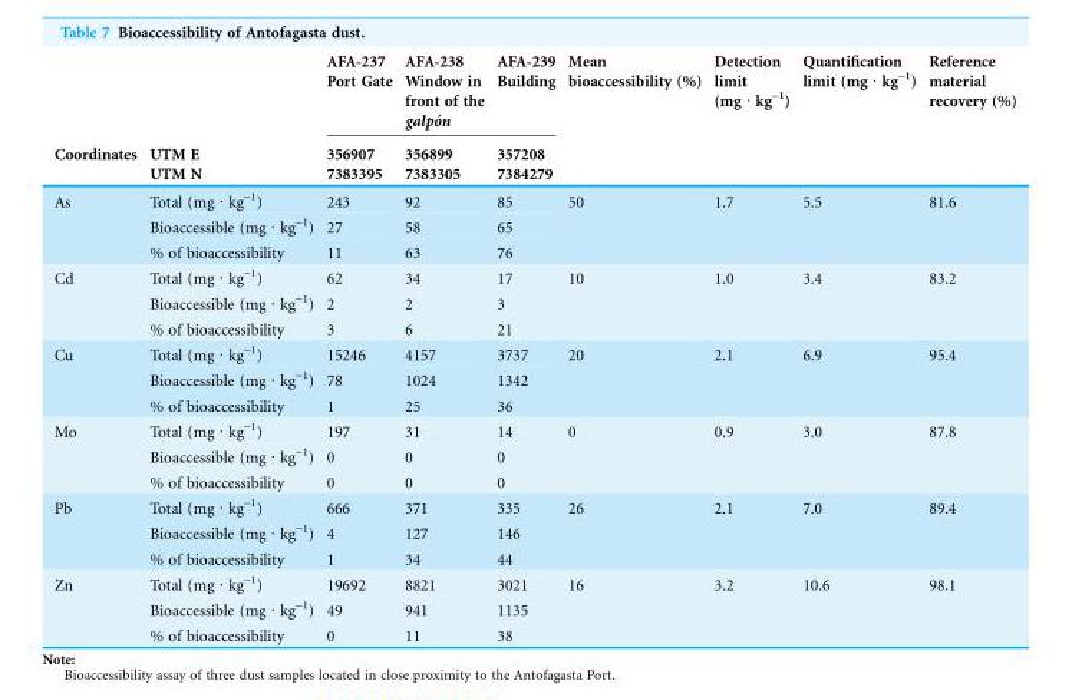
<table><thead><tr><td rowspan="4">Coordinates</td><td rowspan="4">UTM E UTM N</td><td rowspan="4">AFA-237 Port Gate 356907 7383395</td><td rowspan="4">AFA-238 Window in front of the galpo´n 356899 7383305</td><td rowspan="4">AFA-239 Building 357208 7384279</td><td rowspan="4">Mean bioaccessibility (%)</td><td rowspan="4">Detection limit (mg · kg<sup>-1</sup>)</td><td rowspan="4">Quantification limit (mg · kg<sup>-1</sup>)</td><td rowspan="4">Reference material recovery (%)</td></tr><tr></tr><tr></tr><tr></tr></thead><tbody><tr><td rowspan="3">As</td><td>Total (mg · kg<sup>-1</sup>)</td><td>243</td><td>92</td><td>85</td><td rowspan="3">50</td><td rowspan="3">1.7</td><td rowspan="3">5.5</td><td rowspan="3">81.6</td></tr><tr><td>Bioaccessible (mg · kg<sup>-1</sup>)</td><td>27</td><td>58</td><td>65</td></tr><tr><td>% of bioaccessibility</td><td>11</td><td>63</td><td>76</td></tr><tr><td rowspan="3">Cd</td><td>Total (mg · kg<sup>-1</sup>)</td><td>62</td><td>34</td><td>17</td><td rowspan="3">10</td><td rowspan="3">1.0</td><td rowspan="3">3.4</td><td rowspan="3">83.2</td></tr><tr><td>Bioaccessible (mg · kg<sup>-1</sup>)</td><td>2</td><td>2</td><td>3</td></tr><tr><td>% of bioaccessibility</td><td>3</td><td>6</td><td>21</td></tr><tr><td rowspan="3">Cu</td><td>Total (mg · kg<sup>-1</sup>)</td><td>15246</td><td>4157</td><td>3737</td><td rowspan="3">20</td><td rowspan="3">2.1</td><td rowspan="3">6.9</td><td rowspan="3">95.4</td></tr><tr><td>Bioaccessible (mg · kg<sup>-1</sup>)</td><td>78</td><td>1024</td><td>1342</td></tr><tr><td>% of bioaccessibility</td><td>1</td><td>25</td><td>36</td></tr><tr><td rowspan="3">Mo</td><td>Total (mg · kg<sup>-1</sup>)</td><td>197</td><td>31</td><td>14</td><td rowspan="3">0</td><td rowspan="3">0.9</td><td rowspan="3">3.0</td><td rowspan="3">87.8</td></tr><tr><td>Bioaccessible (mg · kg<sup>-1</sup>)</td><td>0</td><td>0</td><td>0</td></tr><tr><td>% of bioaccessibility</td><td>0</td><td>0</td><td>0</td></tr><tr><td rowspan="3">Pb</td><td>Total (mg · kg<sup>-1</sup>)</td><td>666</td><td>371</td><td>335</td><td rowspan="3">26</td><td rowspan="3">2.1</td><td rowspan="3">7.0</td><td rowspan="3">89.4</td></tr><tr><td>Bioaccessible (mg · kg<sup>-1</sup>)</td><td>4</td><td>127</td><td>146</td></tr><tr><td>% of bioaccessibility</td><td>1</td><td>34</td><td>44</td></tr><tr><td rowspan="3">Zn</td><td>Total (mg · kg<sup>-1</sup>)</td><td>19692</td><td>8821</td><td>3021</td><td rowspan="3">16</td><td rowspan="3">3.2</td><td rowspan="3">10.6</td><td rowspan="3">98.1</td></tr><tr><td>Bioaccessible (mg · kg<sup>-1</sup>)</td><td>49</td><td>941</td><td>1135</td></tr><tr><td>% of bioaccessibility</td><td>0</td><td>11</td><td>38</td></tr></tbody></table>